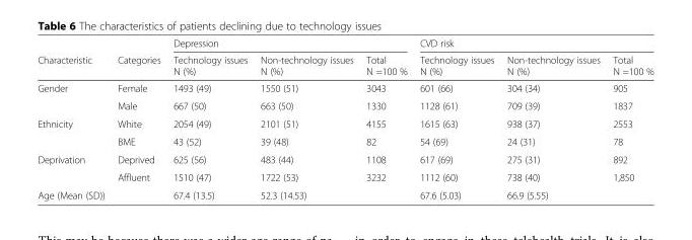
<table><thead><tr><td rowspan="2">Characteristic</td><td rowspan="2">Categories</td><td colspan="3">Depression</td><td colspan="3">CVD risk</td></tr><tr><td>Technology issues N (%)</td><td>Non-technology issues N (%)</td><td>Total N =100 %</td><td>Technology issues N (%)</td><td>Non-technology issues N (%)</td><td>Total N =100 %</td></tr></thead><tbody><tr><td rowspan="2">Gender</td><td>Female</td><td>1493 (49)</td><td>1550 (51)</td><td>3043</td><td>601 (66)</td><td>304 (34)</td><td>905</td></tr><tr><td>Male</td><td>667 (50)</td><td>663 (50)</td><td>1330</td><td>1128 (61)</td><td>709 (39)</td><td>1837</td></tr><tr><td rowspan="2">Ethnicity</td><td>White</td><td>2054 (49)</td><td>2101 (51)</td><td>4155</td><td>1615 (63)</td><td>938 (37)</td><td>2553</td></tr><tr><td>BME</td><td>43 (52)</td><td>39 (48)</td><td>82</td><td>54 (69)</td><td>24 (31)</td><td>78</td></tr><tr><td rowspan="2">Deprivation</td><td>Deprived</td><td>625 (56)</td><td>483 (44)</td><td>1108</td><td>617 (69)</td><td>275 (31)</td><td>892</td></tr><tr><td>Affluent</td><td>1510 (47)</td><td>1722 (53)</td><td>3232</td><td>1112 (60)</td><td>738 (40)</td><td>1,850</td></tr><tr><td>Age (Mean (SD))</td><td></td><td>67.4 (13.5)</td><td>52.3 (14.53)</td><td></td><td>67.6 (5.03)</td><td>66.9 (5.55)</td><td></td></tr></tbody></table>